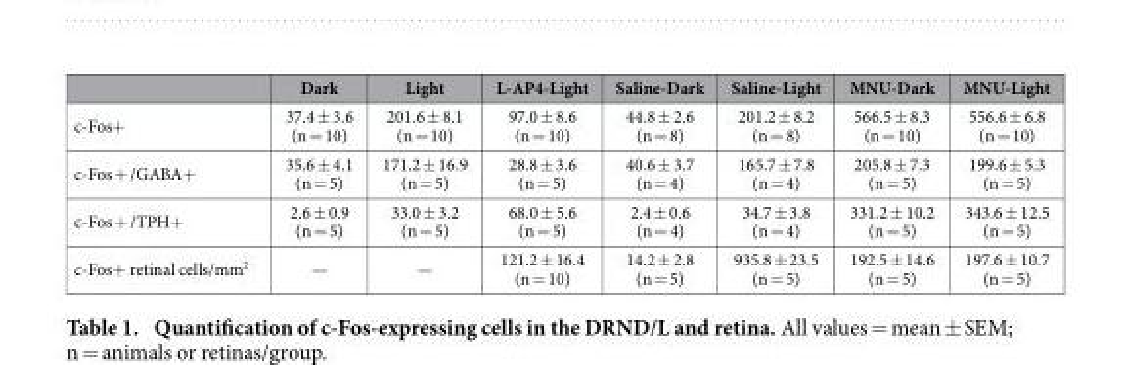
<table><thead><tr><td></td><td>Dark</td><td>Light</td><td>L-AP4-Light</td><td>Saline-Dark</td><td>Saline-Light</td><td>MNU-Dark</td><td>MNU-Light</td></tr></thead><tbody><tr><td>c-Fos+</td><td>37.4 ± 3.6 (n = 10)</td><td>201.6 ± 8.1 (n = 10)</td><td>97.0 ± 8.6 (n = 10)</td><td>44.8 ± 2.6 (n = 8)</td><td>201.2 ± 8.2 (n = 8)</td><td>566.5 ± 8.3 (n = 10)</td><td>556.6 ± 6.8 (n = 10)</td></tr><tr><td>c-Fos + /GABA+</td><td>35.6 ± 4.1 (n = 5)</td><td>171.2 ± 16.9 (n = 5)</td><td>28.8 ± 3.6 (n = 5)</td><td>40.6 ± 3.7 (n = 4)</td><td>165.7 ± 7.8 (n = 4)</td><td>205.8 ± 7.3 (n = 5)</td><td>199.6 ± 5.3 (n = 5)</td></tr><tr><td>c-Fos + /TPH+</td><td>2.6 ± 0.9 (n = 5)</td><td>33.0 ± 3.2 (n = 5)</td><td>68.0 ± 5.6 (n = 5)</td><td>2.4 ± 0.6 (n = 4)</td><td>34.7 ± 3.8 (n = 4)</td><td>331.2 ± 10.2 (n = 5)</td><td>343.6 ± 12.5 (n = 5)</td></tr><tr><td>c-Fos+ retinal cells/mm<sup>2</sup></td><td>—</td><td>—</td><td>121.2 ± 16.4 (n = 10)</td><td>14.2 ± 2.8 (n = 5)</td><td>935.8 ± 23.5 (n = 5)</td><td>192.5 ± 14.6 (n = 5)</td><td>197.6 ± 10.7 (n = 5)</td></tr></tbody></table>